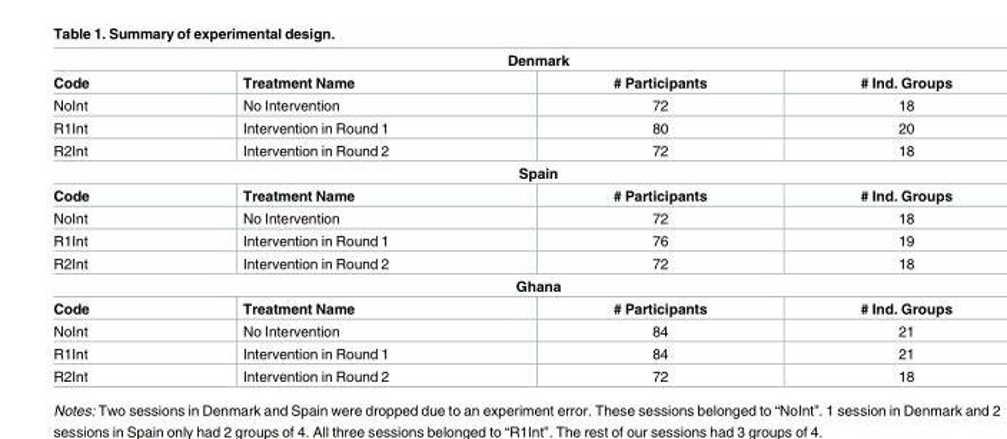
<table><tbody><tr><td colspan="4">Denmark</td></tr><tr><td>Code</td><td>Treatment Name</td><td># Participants</td><td># Ind. Groups</td></tr><tr><td>NoInt</td><td>No Intervention</td><td>72</td><td>18</td></tr><tr><td>R1Int</td><td>Intervention in Round 1</td><td>80</td><td>20</td></tr><tr><td>R2Int</td><td>Intervention in Round 2</td><td>72</td><td>18</td></tr><tr><td colspan="4">Spain</td></tr><tr><td>Code</td><td>Treatment Name</td><td># Participants</td><td># Ind. Groups</td></tr><tr><td>NoInt</td><td>No Intervention</td><td>72</td><td>18</td></tr><tr><td>R1Int</td><td>Intervention in Round 1</td><td>76</td><td>19</td></tr><tr><td>R2Int</td><td>Intervention in Round 2</td><td>72</td><td>18</td></tr><tr><td colspan="4">Ghana</td></tr><tr><td>Code</td><td>Treatment Name</td><td># Participants</td><td># Ind. Groups</td></tr><tr><td>NoInt</td><td>No Intervention</td><td>84</td><td>21</td></tr><tr><td>R1Int</td><td>Intervention in Round 1</td><td>84</td><td>21</td></tr><tr><td>R2Int</td><td>Intervention in Round 2</td><td>72</td><td>18</td></tr></tbody></table>